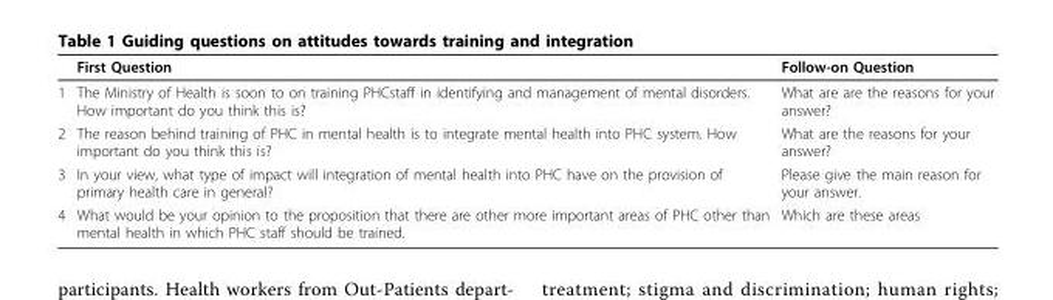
<table><thead><tr><td></td><td>First Question</td><td>Follow-on Question</td></tr></thead><tbody><tr><td>1</td><td>The Ministry of Health is soon to on training PHCstaff in identifying and management of mental disorders. How important do you think this is?</td><td>What are are the reasons for your answer?</td></tr><tr><td>2</td><td>The reason behind training of PHC in mental health is to integrate mental health into PHC system. How important do you think this is?</td><td>What are the reasons for your answer?</td></tr><tr><td>3</td><td>In your view, what type of impact will integration of mental health into PHC have on the provision of primary health care in general?</td><td>Please give the main reason for your answer.</td></tr><tr><td>4</td><td>What would be your opinion to the proposition that there are other more important areas of PHC other than mental health in which PHC staff should be trained.</td><td>Which are these areas</td></tr></tbody></table>